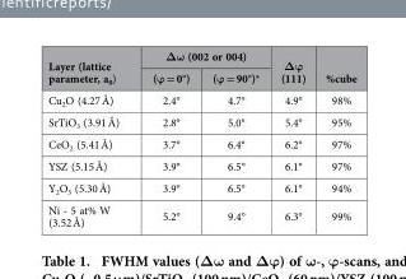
<table><thead><tr><td rowspan="2">Layer (lattice parameter, a<sub>0</sub>)</td><td colspan="2">Δω (002 or 004)</td><td rowspan="2">Δϕ (111)</td><td rowspan="2">%cube</td></tr><tr><td>(ϕ = 0°)</td><td>(ϕ = 90°)*</td></tr></thead><tbody><tr><td>Cu<sub>2</sub>O (4.27 Å)</td><td>2.4°</td><td>4.7°</td><td>4.9°</td><td>98%</td></tr><tr><td>SrTiO<sub>3</sub> (3.91 Å)</td><td>2.8°</td><td>5.0°</td><td>5.4°</td><td>95%</td></tr><tr><td>CeO<sub>2</sub> (5.41 Å)</td><td>3.7°</td><td>6.4°</td><td>6.2°</td><td>97%</td></tr><tr><td>YSZ (5.15 Å)</td><td>3.9°</td><td>6.5°</td><td>6.1°</td><td>97%</td></tr><tr><td>Y<sub>2</sub>O<sub>3</sub> (5.30 Å)</td><td>3.9°</td><td>6.5°</td><td>6.1°</td><td>94%</td></tr><tr><td>Ni - 5 at% W (3.52 Å)</td><td>5.2°</td><td>9.4°</td><td>6.3°</td><td>99%</td></tr></tbody></table>